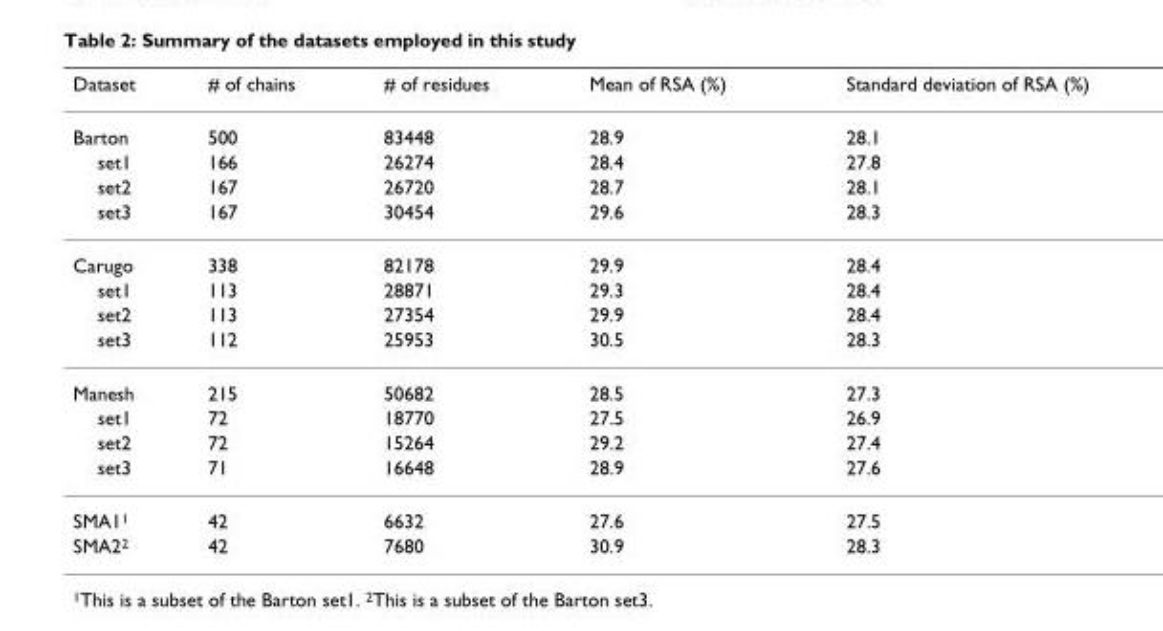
<table><thead><tr><td>Dataset</td><td># of chains</td><td># of residues</td><td>Mean of RSA (%)</td><td>Standard deviation of RSA (%)</td></tr></thead><tbody><tr><td>Barton</td><td>500</td><td>83448</td><td>28.9</td><td>28.1</td></tr><tr><td>set1</td><td>166</td><td>26274</td><td>28.4</td><td>27.8</td></tr><tr><td>set2</td><td>167</td><td>26720</td><td>28.7</td><td>28.1</td></tr><tr><td>set3</td><td>167</td><td>30454</td><td>29.6</td><td>28.3</td></tr><tr><td>Carugo</td><td>338</td><td>82178</td><td>29.9</td><td>28.4</td></tr><tr><td>set1</td><td>113</td><td>28871</td><td>29.3</td><td>28.4</td></tr><tr><td>set2</td><td>113</td><td>27354</td><td>29.9</td><td>28.4</td></tr><tr><td>set3</td><td>112</td><td>25953</td><td>30.5</td><td>28.3</td></tr><tr><td>Manesh</td><td>215</td><td>50682</td><td>28.5</td><td>27.3</td></tr><tr><td>set1</td><td>72</td><td>18770</td><td>27.5</td><td>26.9</td></tr><tr><td>set2</td><td>72</td><td>15264</td><td>29.2</td><td>27.4</td></tr><tr><td>set3</td><td>71</td><td>16648</td><td>28.9</td><td>27.6</td></tr><tr><td>SMA1<sup>1</sup></td><td>42</td><td>6632</td><td>27.6</td><td>27.5</td></tr><tr><td>SMA2<sup>2</sup></td><td>42</td><td>7680</td><td>30.9</td><td>28.3</td></tr></tbody></table>